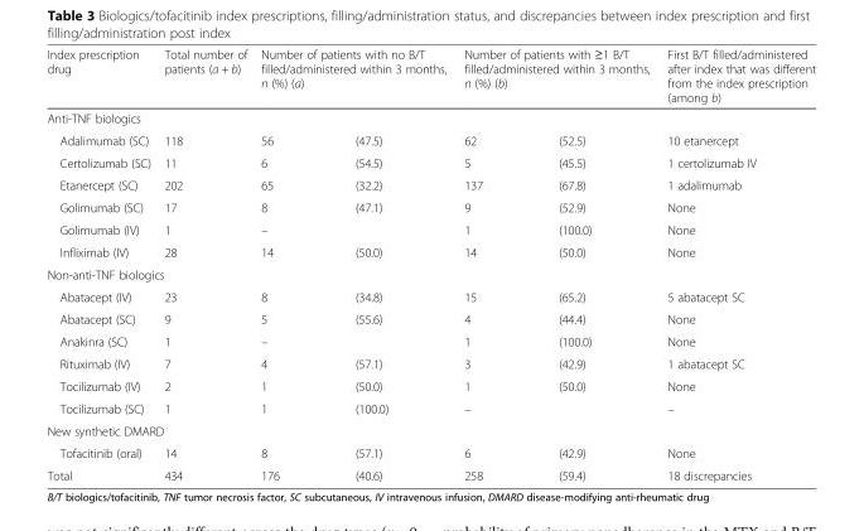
<table><thead><tr><td>Index prescription drug</td><td>Total number of patients (a + b)</td><td colspan="2">Number of patients with no B/T filled/administered within 3 months, n (%) (a)</td><td colspan="2">Number of patients with ≥1 B/T filled/administered within 3 months, n (%) (b)</td><td>First B/T filled/administered after index that was different from the index prescription (among b)</td></tr><tr><td colspan="7">Anti-TNF biologics</td></tr><tr><td>Adalimumab (SC)</td><td>118</td><td>56</td><td>(47.5)</td><td>62</td><td>(52.5)</td><td>10 etanercept</td></tr></thead><tbody><tr><td>Certolizumab (SC)</td><td>11</td><td>6</td><td>(54.5)</td><td>5</td><td>(45.5)</td><td>1 certolizumab IV</td></tr><tr><td>Etanercept (SC)</td><td>202</td><td>65</td><td>(32.2)</td><td>137</td><td>(67.8)</td><td>1 adalimumab</td></tr><tr><td>Golimumab (SC)</td><td>17</td><td>8</td><td>(47.1)</td><td>9</td><td>(52.9)</td><td>None</td></tr><tr><td>Golimumab (IV)</td><td>1</td><td>–</td><td></td><td>1</td><td>(100.0)</td><td>None</td></tr><tr><td>Infliximab (IV)</td><td>28</td><td>14</td><td>(50.0)</td><td>14</td><td>(50.0)</td><td>None</td></tr><tr><td colspan="7">Non-anti-TNF biologics</td></tr><tr><td>Abatacept (IV)</td><td>23</td><td>8</td><td>(34.8)</td><td>15</td><td>(65.2)</td><td>5 abatacept SC</td></tr><tr><td>Abatacept (SC)</td><td>9</td><td>5</td><td>(55.6)</td><td>4</td><td>(44.4)</td><td>None</td></tr><tr><td>Anakinra (SC)</td><td>1</td><td>–</td><td></td><td>1</td><td>(100.0)</td><td>None</td></tr><tr><td>Rituximab (IV)</td><td>7</td><td>4</td><td>(57.1)</td><td>3</td><td>(42.9)</td><td>1 abatacept SC</td></tr><tr><td>Tocilizumab (IV)</td><td>2</td><td>1</td><td>(50.0)</td><td>1</td><td>(50.0)</td><td>None</td></tr><tr><td>Tocilizumab (SC)</td><td>1</td><td>1</td><td>(100.0)</td><td>–</td><td></td><td>–</td></tr><tr><td colspan="7">New synthetic DMARD</td></tr><tr><td>Tofacitinib (oral)</td><td>14</td><td>8</td><td>(57.1)</td><td>6</td><td>(42.9)</td><td>None</td></tr><tr><td>Total</td><td>434</td><td>176</td><td>(40.6)</td><td>258</td><td>(59.4)</td><td>18 discrepancies</td></tr></tbody></table>